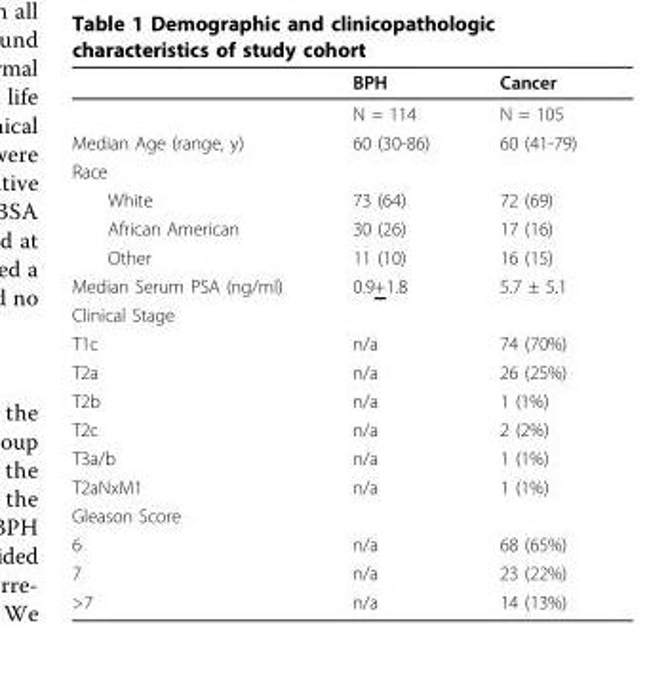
<table><thead><tr><td></td><td>BPH</td><td>Cancer</td></tr></thead><tbody><tr><td></td><td>N = 114</td><td>N = 105</td></tr><tr><td>Median Age (range, y)</td><td>60 (30-86)</td><td>60 (41-79)</td></tr><tr><td colspan="3">Race</td></tr><tr><td>White</td><td>73 (64)</td><td>72 (69)</td></tr><tr><td>African American</td><td>30 (26)</td><td>17 (16)</td></tr><tr><td>Other</td><td>11 (10)</td><td>16 (15)</td></tr><tr><td>Median Serum PSA (ng/ml)</td><td>0.9+1.8</td><td>5.7 ± 5.1</td></tr><tr><td colspan="3">Clinical Stage</td></tr><tr><td>T1c</td><td>n/a</td><td>74 (70%)</td></tr><tr><td>T2a</td><td>n/a</td><td>26 (25%)</td></tr><tr><td>T2b</td><td>n/a</td><td>1 (1%)</td></tr><tr><td>T2c</td><td>n/a</td><td>2 (2%)</td></tr><tr><td>T3a/b</td><td>n/a</td><td>1 (1%)</td></tr><tr><td>T2aNxM1</td><td>n/a</td><td>1 (1%)</td></tr><tr><td colspan="3">Gleason Score</td></tr><tr><td>6</td><td>n/a</td><td>68 (65%)</td></tr><tr><td>7</td><td>n/a</td><td>23 (22%)</td></tr><tr><td>&gt;7</td><td>n/a</td><td>14 (13%)</td></tr></tbody></table>